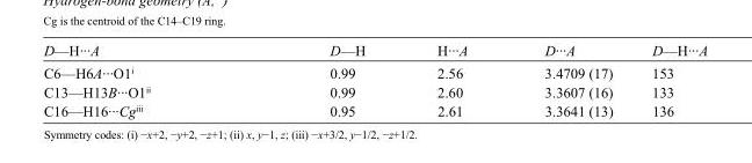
<table><tbody><tr><td>D—H···A</td><td>D—H</td><td>H···A</td><td>D···A</td><td>D—H···A</td></tr><tr><td>C6—H6A···O1<sup>i</sup></td><td>0.99</td><td>2.56</td><td>3.4709 (17)</td><td>153</td></tr><tr><td>C13—H13B···O1<sup>ii</sup></td><td>0.99</td><td>2.60</td><td>3.3607 (16)</td><td>133</td></tr><tr><td>C16—H16···Cg<sup>iii</sup></td><td>0.95</td><td>2.61</td><td>3.3641 (13)</td><td>136</td></tr></tbody></table>